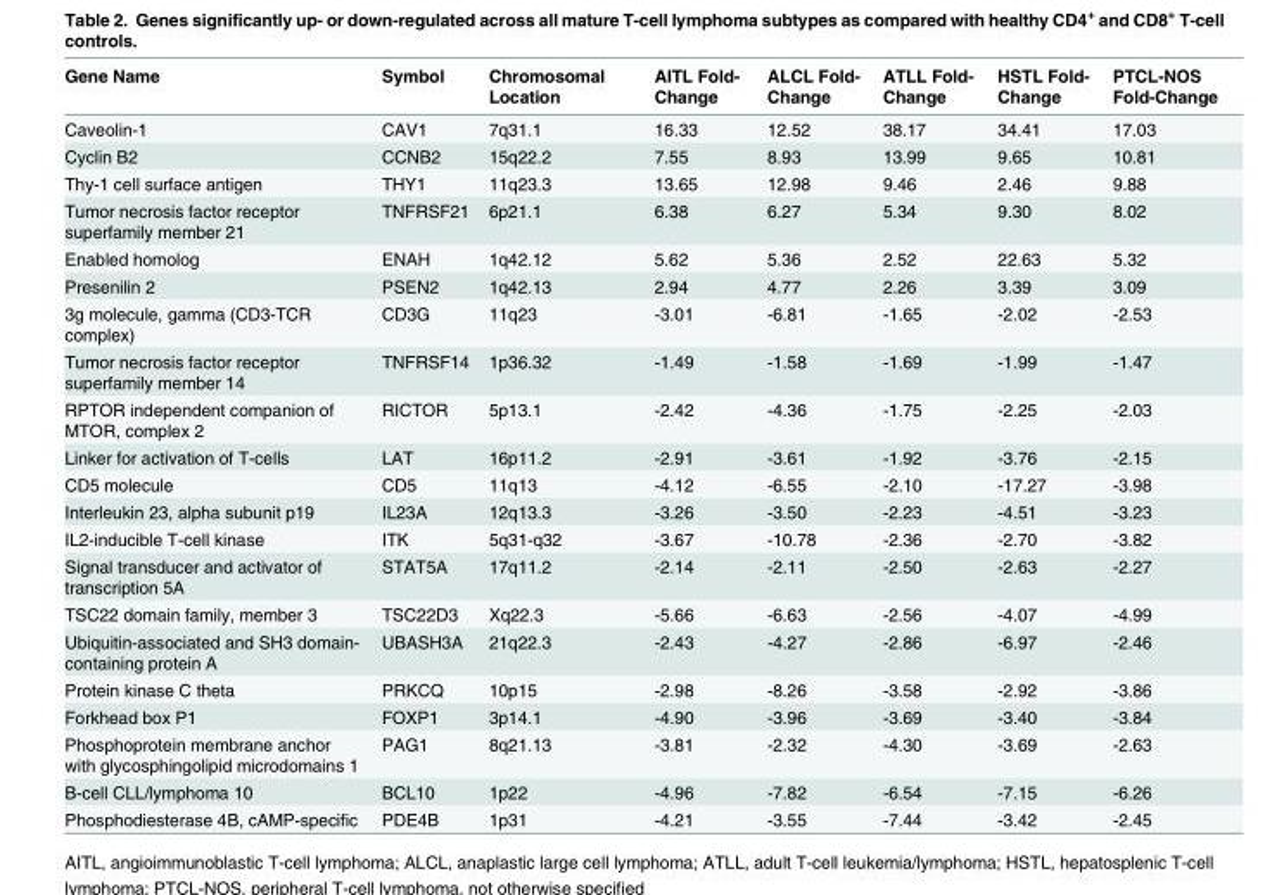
<table><thead><tr><td>Gene Name</td><td>Symbol</td><td>Chromosomal Location</td><td>AITL Fold- Change</td><td>ALCL Fold- Change</td><td>ATLL Fold- Change</td><td>HSTL Fold- Change</td><td>PTCL-NOS Fold-Change</td></tr></thead><tbody><tr><td>Caveolin-1</td><td>CAV1</td><td>7q31.1</td><td>16.33</td><td>12.52</td><td>38.17</td><td>34.41</td><td>17.03</td></tr><tr><td>Cyclin B2</td><td>CCNB2</td><td>15q22.2</td><td>7.55</td><td>8.93</td><td>13.99</td><td>9.65</td><td>10.81</td></tr><tr><td>Thy-1 cell surface antigen</td><td>THY1</td><td>11q23.3</td><td>13.65</td><td>12.98</td><td>9.46</td><td>2.46</td><td>9.88</td></tr><tr><td>Tumor necrosis factor receptor superfamily member 21</td><td>TNFRSF21</td><td>6p21.1</td><td>6.38</td><td>6.27</td><td>5.34</td><td>9.30</td><td>8.02</td></tr><tr><td>Enabled homolog</td><td>ENAH</td><td>1q42.12</td><td>5.62</td><td>5.36</td><td>2.52</td><td>22.63</td><td>5.32</td></tr><tr><td>Presenilin 2</td><td>PSEN2</td><td>1q42.13</td><td>2.94</td><td>4.77</td><td>2.26</td><td>3.39</td><td>3.09</td></tr><tr><td>3g molecule, gamma (CD3-TCR complex)</td><td>CD3G</td><td>11q23</td><td>-3.01</td><td>-6.81</td><td>-1.65</td><td>-2.02</td><td>-2.53</td></tr><tr><td>Tumor necrosis factor receptor superfamily member 14</td><td>TNFRSF14</td><td>1p36.32</td><td>-1.49</td><td>-1.58</td><td>-1.69</td><td>-1.99</td><td>-1.47</td></tr><tr><td>RPTOR independent companion of MTOR, complex 2</td><td>RICTOR</td><td>5p13.1</td><td>-2.42</td><td>-4.36</td><td>-1.75</td><td>-2.25</td><td>-2.03</td></tr><tr><td>Linker for activation of T-cells</td><td>LAT</td><td>16p11.2</td><td>-2.91</td><td>-3.61</td><td>-1.92</td><td>-3.76</td><td>-2.15</td></tr><tr><td>CD5 molecule</td><td>CD5</td><td>11q13</td><td>-4.12</td><td>-6.55</td><td>-2.10</td><td>-17.27</td><td>-3.98</td></tr><tr><td>Interleukin 23, alpha subunit p19</td><td>IL23A</td><td>12q13.3</td><td>-3.26</td><td>-3.50</td><td>-2.23</td><td>-4.51</td><td>-3.23</td></tr><tr><td>IL2-inducible T-cell kinase</td><td>ITK</td><td>5q31-q32</td><td>-3.67</td><td>-10.78</td><td>-2.36</td><td>-2.70</td><td>-3.82</td></tr><tr><td>Signal transducer and activator of transcription 5A</td><td>STAT5A</td><td>17q11.2</td><td>-2.14</td><td>-2.11</td><td>-2.50</td><td>-2.63</td><td>-2.27</td></tr><tr><td>TSC22 domain family, member 3</td><td>TSC22D3</td><td>Xq22.3</td><td>-5.66</td><td>-6.63</td><td>-2.56</td><td>-4.07</td><td>-4.99</td></tr><tr><td>Ubiquitin-associated and SH3 domain- containing protein A</td><td>UBASH3A</td><td>21q22.3</td><td>-2.43</td><td>-4.27</td><td>-2.86</td><td>-6.97</td><td>-2.46</td></tr><tr><td>Protein kinase C theta</td><td>PRKCQ</td><td>10p15</td><td>-2.98</td><td>-8.26</td><td>-3.58</td><td>-2.92</td><td>-3.86</td></tr><tr><td>Forkhead box P1</td><td>FOXP1</td><td>3p14.1</td><td>-4.90</td><td>-3.96</td><td>-3.69</td><td>-3.40</td><td>-3.84</td></tr><tr><td>Phosphoprotein membrane anchor with glycosphingolipid microdomains 1</td><td>PAG1</td><td>8q21.13</td><td>-3.81</td><td>-2.32</td><td>-4.30</td><td>-3.69</td><td>-2.63</td></tr><tr><td>B-cell CLL/lymphoma 10</td><td>BCL10</td><td>1p22</td><td>-4.96</td><td>-7.82</td><td>-6.54</td><td>-7.15</td><td>-6.26</td></tr><tr><td>Phosphodiesterase 4B, cAMP-specific</td><td>PDE4B</td><td>1p31</td><td>-4.21</td><td>-3.55</td><td>-7.44</td><td>-3.42</td><td>-2.45</td></tr></tbody></table>